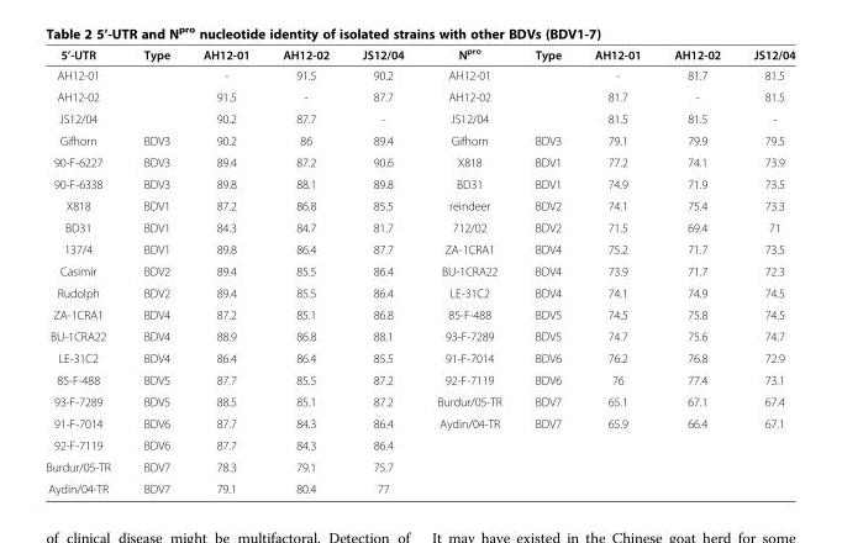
<table><thead><tr><td>5’-UTR</td><td>Type</td><td>AH12-01</td><td>AH12-02</td><td>JS12/04</td><td>N<sup>pro</sup></td><td>Type</td><td>AH12-01</td><td>AH12-02</td><td>JS12/04</td></tr></thead><tbody><tr><td>AH12-01</td><td></td><td>-</td><td>91.5</td><td>90.2</td><td>AH12-01</td><td></td><td>-</td><td>81.7</td><td>81.5</td></tr><tr><td>AH12-02</td><td></td><td>91.5</td><td>-</td><td>87.7</td><td>AH12-02</td><td></td><td>81.7</td><td>-</td><td>81.5</td></tr><tr><td>JS12/04</td><td></td><td>90.2</td><td>87.7</td><td>-</td><td>JS12/04</td><td></td><td>81.5</td><td>81.5</td><td>-</td></tr><tr><td>Gifhorn</td><td>BDV3</td><td>90.2</td><td>86</td><td>89.4</td><td>Gifhorn</td><td>BDV3</td><td>79.1</td><td>79.9</td><td>79.5</td></tr><tr><td>90-F-6227</td><td>BDV3</td><td>89.4</td><td>87.2</td><td>90.6</td><td>X818</td><td>BDV1</td><td>77.2</td><td>74.1</td><td>73.9</td></tr><tr><td>90-F-6338</td><td>BDV3</td><td>89.8</td><td>88.1</td><td>89.8</td><td>BD31</td><td>BDV1</td><td>74.9</td><td>71.9</td><td>73.5</td></tr><tr><td>X818</td><td>BDV1</td><td>87.2</td><td>86.8</td><td>85.5</td><td>reindeer</td><td>BDV2</td><td>74.1</td><td>75.4</td><td>73.3</td></tr><tr><td>BD31</td><td>BDV1</td><td>84.3</td><td>84.7</td><td>81.7</td><td>712/02</td><td>BDV2</td><td>71.5</td><td>69.4</td><td>71</td></tr><tr><td>137/4</td><td>BDV1</td><td>89.8</td><td>86.4</td><td>87.7</td><td>ZA-1CRA1</td><td>BDV4</td><td>75.2</td><td>71.7</td><td>73.5</td></tr><tr><td>Casimir</td><td>BDV2</td><td>89.4</td><td>85.5</td><td>86.4</td><td>BU-1CRA22</td><td>BDV4</td><td>73.9</td><td>71.7</td><td>72.3</td></tr><tr><td>Rudolph</td><td>BDV2</td><td>89.4</td><td>85.5</td><td>86.4</td><td>LE-31C2</td><td>BDV4</td><td>74.1</td><td>74.9</td><td>74.5</td></tr><tr><td>ZA-1CRA1</td><td>BDV4</td><td>87.2</td><td>85.1</td><td>86.8</td><td>85-F-488</td><td>BDV5</td><td>74.5</td><td>75.8</td><td>74.5</td></tr><tr><td>BU-1CRA22</td><td>BDV4</td><td>88.9</td><td>86.8</td><td>88.1</td><td>93-F-7289</td><td>BDV5</td><td>74.7</td><td>75.6</td><td>74.7</td></tr><tr><td>LE-31C2</td><td>BDV4</td><td>86.4</td><td>86.4</td><td>85.5</td><td>91-F-7014</td><td>BDV6</td><td>76.2</td><td>76.8</td><td>72.9</td></tr><tr><td>85-F-488</td><td>BDV5</td><td>87.7</td><td>85.5</td><td>87.2</td><td>92-F-7119</td><td>BDV6</td><td>76</td><td>77.4</td><td>73.1</td></tr><tr><td>93-F-7289</td><td>BDV5</td><td>88.5</td><td>85.1</td><td>87.2</td><td>Burdur/05-TR</td><td>BDV7</td><td>65.1</td><td>67.1</td><td>67.4</td></tr><tr><td>91-F-7014</td><td>BDV6</td><td>87.7</td><td>84.3</td><td>86.4</td><td>Aydin/04-TR</td><td>BDV7</td><td>65.9</td><td>66.4</td><td>67.1</td></tr><tr><td>92-F-7119</td><td>BDV6</td><td>87.7</td><td>84.3</td><td>86.4</td><td></td><td></td><td></td><td></td><td></td></tr><tr><td>Burdur/05-TR</td><td>BDV7</td><td>78.3</td><td>79.1</td><td>75.7</td><td></td><td></td><td></td><td></td><td></td></tr><tr><td>Aydin/04-TR</td><td>BDV7</td><td>79.1</td><td>80.4</td><td>77</td><td></td><td></td><td></td><td></td><td></td></tr></tbody></table>